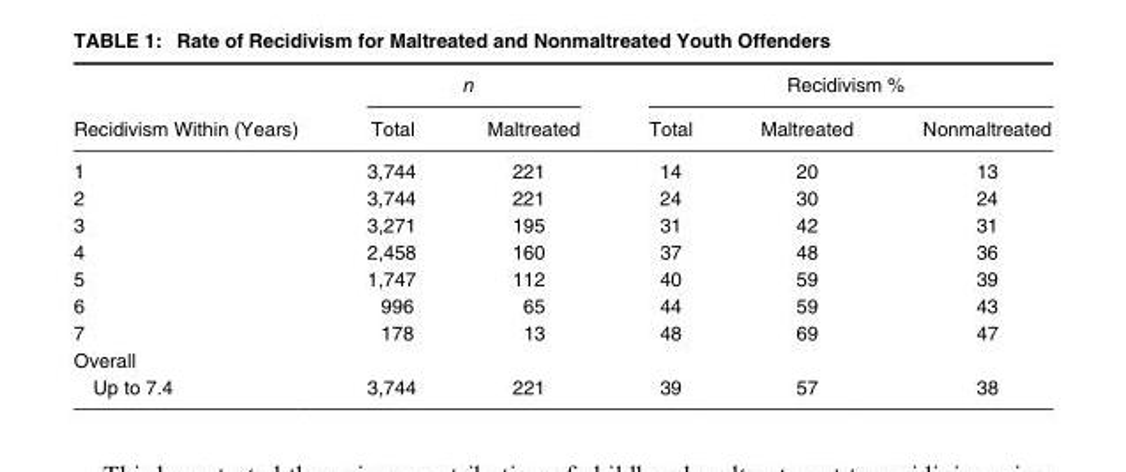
<table><thead><tr><td rowspan="2">Recidivism Within (Years)</td><td colspan="2">n</td><td colspan="3">Recidivism %</td></tr><tr><td>Total</td><td>Maltreated</td><td>Total</td><td>Maltreated</td><td>Nonmaltreated</td></tr></thead><tbody><tr><td>1</td><td>3,744</td><td>221</td><td>14</td><td>20</td><td>13</td></tr><tr><td>2</td><td>3,744</td><td>221</td><td>24</td><td>30</td><td>24</td></tr><tr><td>3</td><td>3,271</td><td>195</td><td>31</td><td>42</td><td>31</td></tr><tr><td>4</td><td>2,458</td><td>160</td><td>37</td><td>48</td><td>36</td></tr><tr><td>5</td><td>1,747</td><td>112</td><td>40</td><td>59</td><td>39</td></tr><tr><td>6</td><td>996</td><td>65</td><td>44</td><td>59</td><td>43</td></tr><tr><td>7</td><td>178</td><td>13</td><td>48</td><td>69</td><td>47</td></tr><tr><td colspan="6">Overall</td></tr><tr><td>Up to 7.4</td><td>3,744</td><td>221</td><td>39</td><td>57</td><td>38</td></tr></tbody></table>